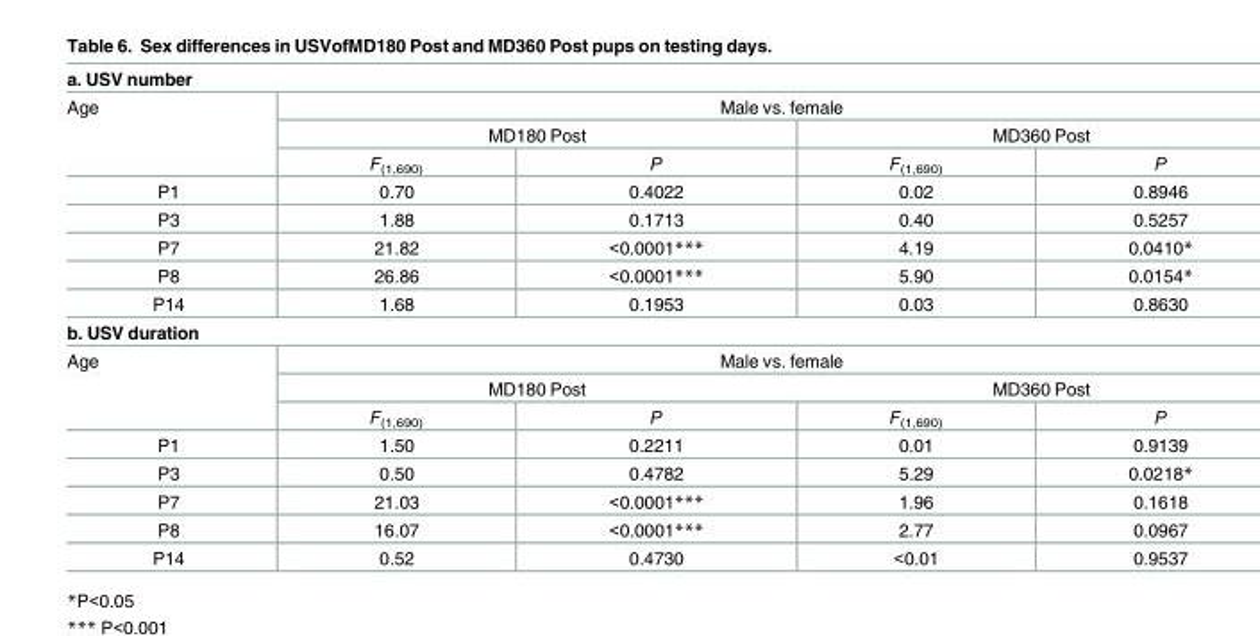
<table><tbody><tr><td colspan="5">a. USV number</td></tr><tr><td rowspan="3">Age</td><td colspan="4">Male vs. female</td></tr><tr><td colspan="2">MD180 Post</td><td colspan="2">MD360 Post</td></tr><tr><td>F<sub>(1,690)</sub></td><td>P</td><td>F<sub>(1,690)</sub></td><td>P</td></tr><tr><td>P1</td><td>0.70</td><td>0.4022</td><td>0.02</td><td>0.8946</td></tr><tr><td>P3</td><td>1.88</td><td>0.1713</td><td>0.40</td><td>0.5257</td></tr><tr><td>P7</td><td>21.82</td><td>&lt;0.0001***</td><td>4.19</td><td>0.0410*</td></tr><tr><td>P8</td><td>26.86</td><td>&lt;0.0001***</td><td>5.90</td><td>0.0154*</td></tr><tr><td>P14</td><td>1.68</td><td>0.1953</td><td>0.03</td><td>0.8630</td></tr><tr><td colspan="5">b. USV duration</td></tr><tr><td rowspan="3">Age</td><td colspan="4">Male vs. female</td></tr><tr><td colspan="4">MD180 Post MD360 Post</td></tr><tr><td>F<sub>(1,690)</sub></td><td>P</td><td>F<sub>(1,690)</sub></td><td>P</td></tr><tr><td>P1</td><td>1.50</td><td>0.2211</td><td>0.01</td><td>0.9139</td></tr><tr><td>P3</td><td>0.50</td><td>0.4782</td><td>5.29</td><td>0.0218*</td></tr><tr><td>P7</td><td>21.03</td><td>&lt;0.0001***</td><td>1.96</td><td>0.1618</td></tr><tr><td>P8</td><td>16.07</td><td>&lt;0.0001***</td><td>2.77</td><td>0.0967</td></tr><tr><td>P14</td><td>0.52</td><td>0.4730</td><td>&lt;0.01</td><td>0.9537</td></tr></tbody></table>